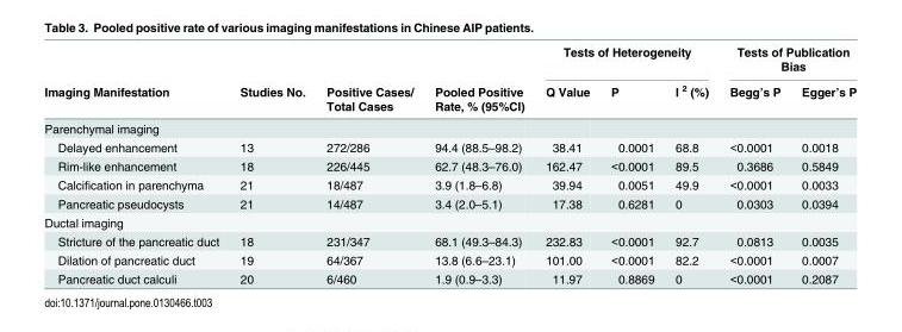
<table><thead><tr><td rowspan="2">Imaging Manifestation</td><td rowspan="2">Studies No.</td><td rowspan="2">Positive Cases/ Total Cases</td><td rowspan="2">Pooled Positive Rate, % (95%CI)</td><td colspan="3">Tests of Heterogeneity</td><td colspan="2">Tests of Publication Bias</td></tr><tr><td>Q Value</td><td>P</td><td>I <sup>2</sup> (%)</td><td>Begg’s P</td><td>Egger’s P</td></tr></thead><tbody><tr><td colspan="9">Parenchymal imaging</td></tr><tr><td>Delayed enhancement</td><td>13</td><td>272/286</td><td>94.4 (88.5–98.2)</td><td>38.41</td><td>0.0001</td><td>68.8</td><td>&lt;0.0001</td><td>0.0018</td></tr><tr><td>Rim-like enhancement</td><td>18</td><td>226/445</td><td>62.7 (48.3–76.0)</td><td>162.47</td><td>&lt;0.0001</td><td>89.5</td><td>0.3686</td><td>0.5849</td></tr><tr><td>Calcification in parenchyma</td><td>21</td><td>18/487</td><td>3.9 (1.8–6.8)</td><td>39.94</td><td>0.0051</td><td>49.9</td><td>&lt;0.0001</td><td>0.0033</td></tr><tr><td>Pancreatic pseudocysts</td><td>21</td><td>14/487</td><td>3.4 (2.0–5.1)</td><td>17.38</td><td>0.6281</td><td>0</td><td>0.0303</td><td>0.0394</td></tr><tr><td colspan="9">Ductal imaging</td></tr><tr><td>Stricture of the pancreatic duct</td><td>18</td><td>231/347</td><td>68.1 (49.3–84.3)</td><td>232.83</td><td>&lt;0.0001</td><td>92.7</td><td>0.0813</td><td>0.0035</td></tr><tr><td>Dilation of pancreatic duct</td><td>19</td><td>64/367</td><td>13.8 (6.6–23.1)</td><td>101.00</td><td>&lt;0.0001</td><td>82.2</td><td>&lt;0.0001</td><td>0.0007</td></tr><tr><td>Pancreatic duct calculi</td><td>20</td><td>6/460</td><td>1.9 (0.9–3.3)</td><td>11.97</td><td>0.8869</td><td>0</td><td>&lt;0.0001</td><td>0.2087</td></tr></tbody></table>